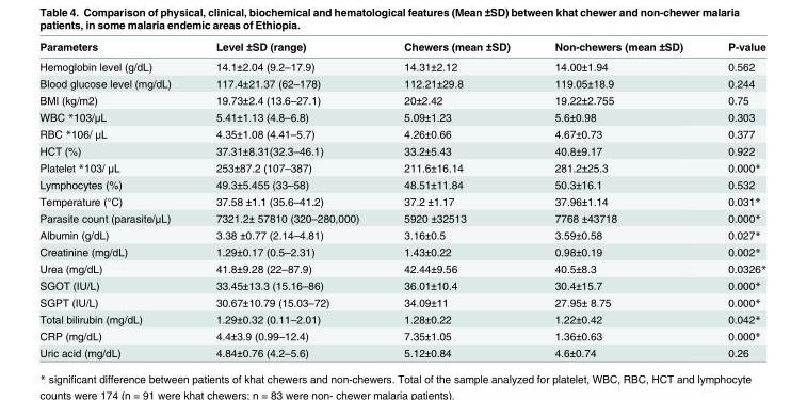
<table><thead><tr><td>Parameters</td><td>Level ±SD (range)</td><td>Chewers (mean ±SD)</td><td>Non-chewers (mean ±SD)</td><td>P-value</td></tr></thead><tbody><tr><td>Hemoglobin level (g/dL)</td><td>14.1±2.04 (9.2–17.9)</td><td>14.31±2.12</td><td>14.00±1.94</td><td>0.562</td></tr><tr><td>Blood glucose level (mg/dL)</td><td>117.4±21.37 (62–178)</td><td>112.21±29.8</td><td>119.05±18.9</td><td>0.244</td></tr><tr><td>BMI (kg/m2)</td><td>19.73±2.4 (13.6–27.1)</td><td>20±2.42</td><td>19.22±2.755</td><td>0.75</td></tr><tr><td>WBC *103/μL</td><td>5.41±1.13 (4.8–6.8)</td><td>5.09±1.23</td><td>5.6±0.98</td><td>0.303</td></tr><tr><td>RBC *106/ μL</td><td>4.35±1.08 (4.41–5.7)</td><td>4.26±0.66</td><td>4.67±0.73</td><td>0.377</td></tr><tr><td>HCT (%)</td><td>37.31±8.31(32.3–46.1)</td><td>33.2±5.43</td><td>40.8±9.17</td><td>0.922</td></tr><tr><td>Platelet *103/ μL</td><td>253±87.2 (107–387)</td><td>211.6±16.14</td><td>281.2±25.3</td><td>0.000*</td></tr><tr><td>Lymphocytes (%)</td><td>49.3±5.455 (33–58)</td><td>48.51±11.84</td><td>50.3±16.1</td><td>0.532</td></tr><tr><td>Temperature (°C)</td><td>37.58 ±1.1 (35.6–41.2)</td><td>37.2 ±1.17</td><td>37.96±1.14</td><td>0.031*</td></tr><tr><td>Parasite count (parasite/μL)</td><td>7321.2± 57810 (320–280,000)</td><td>5920 ±32513</td><td>7768 ±43718</td><td>0.000*</td></tr><tr><td>Albumin (g/dL)</td><td>3.38 ±0.77 (2.14–4.81)</td><td>3.16±0.5</td><td>3.59±0.58</td><td>0.027*</td></tr><tr><td>Creatinine (mg/dL)</td><td>1.29±0.17 (0.5–2.31)</td><td>1.43±0.22</td><td>0.98±0.19</td><td>0.002*</td></tr><tr><td>Urea (mg/dL)</td><td>41.8±9.28 (22–87.9)</td><td>42.44±9.56</td><td>40.5±8.3</td><td>0.0326*</td></tr><tr><td>SGOT (IU/L)</td><td>33.45±13.3 (15.16–86)</td><td>36.01±10.4</td><td>30.4±15.7</td><td>0.000*</td></tr><tr><td>SGPT (IU/L)</td><td>30.67±10.79 (15.03–72)</td><td>34.09±11</td><td>27.95± 8.75</td><td>0.000*</td></tr><tr><td>Total bilirubin (mg/dL)</td><td>1.29±0.32 (0.11–2.01)</td><td>1.28±0.22</td><td>1.22±0.42</td><td>0.042*</td></tr><tr><td>CRP (mg/dL)</td><td>4.4±3.9 (0.99–12.4)</td><td>7.35±1.05</td><td>1.36±0.63</td><td>0.000*</td></tr><tr><td>Uric acid (mg/dL)</td><td>4.84±0.76 (4.2–5.6)</td><td>5.12±0.84</td><td>4.6±0.74</td><td>0.26</td></tr></tbody></table>